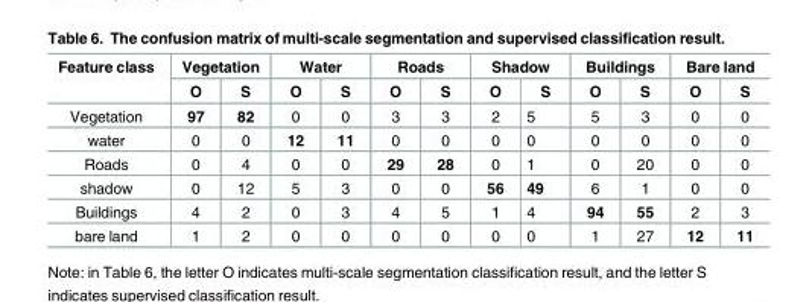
<table><thead><tr><td rowspan="2">Feature class</td><td colspan="2">Vegetation</td><td colspan="2">Water</td><td colspan="2">Roads</td><td colspan="2">Shadow</td><td colspan="2">Buildings</td><td colspan="2">Bare land</td></tr><tr><td>O</td><td>S</td><td>O</td><td>S</td><td>O</td><td>S</td><td>O</td><td>S</td><td>O</td><td>S</td><td>O</td><td>S</td></tr></thead><tbody><tr><td>Vegetation</td><td>97</td><td>82</td><td>0</td><td>0</td><td>3</td><td>3</td><td>2</td><td>5</td><td>5</td><td>3</td><td>0</td><td>0</td></tr><tr><td>water</td><td>0</td><td>0</td><td>12</td><td>11</td><td>0</td><td>0</td><td>0</td><td>0</td><td>0</td><td>0</td><td>0</td><td>0</td></tr><tr><td>Roads</td><td>0</td><td>4</td><td>0</td><td>0</td><td>29</td><td>28</td><td>0</td><td>1</td><td>0</td><td>20</td><td>0</td><td>0</td></tr><tr><td>shadow</td><td>0</td><td>12</td><td>5</td><td>3</td><td>0</td><td>0</td><td>56</td><td>49</td><td>6</td><td>1</td><td>0</td><td>0</td></tr><tr><td>Buildings</td><td>4</td><td>2</td><td>0</td><td>3</td><td>4</td><td>5</td><td>1</td><td>4</td><td>94</td><td>55</td><td>2</td><td>3</td></tr><tr><td>bare land</td><td>1</td><td>2</td><td>0</td><td>0</td><td>0</td><td>0</td><td>0</td><td>0</td><td>1</td><td>27</td><td>12</td><td>11</td></tr></tbody></table>